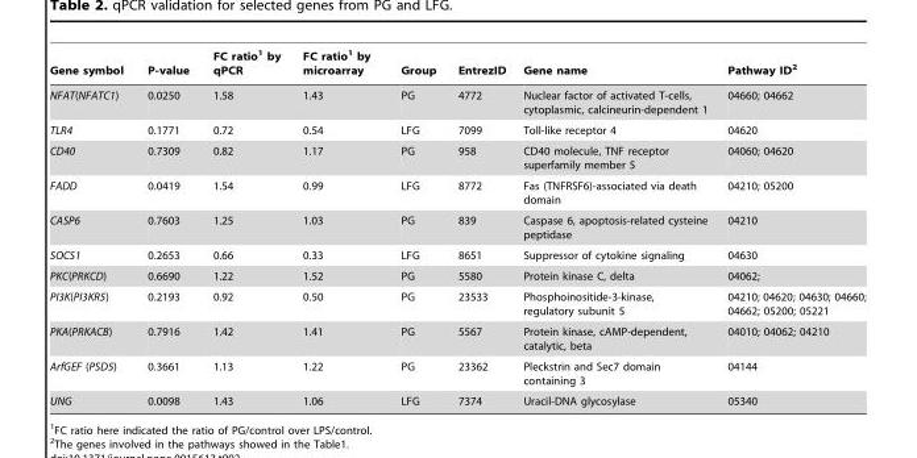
<table><thead><tr><td>Gene symbol</td><td>P-value</td><td>FC ratio<sup>1</sup> by qPCR</td><td>FC ratio<sup>1</sup> by microarray</td><td>Group</td><td>EntrezID</td><td>Gene name</td><td>Pathway ID<sup>2</sup></td></tr></thead><tbody><tr><td>NFAT(NFATC1)</td><td>0.0250</td><td>1.58</td><td>1.43</td><td>PG</td><td>4772</td><td>Nuclear factor of activated T-cells, cytoplasmic, calcineurin-dependent 1</td><td>04660; 04662</td></tr><tr><td>TLR4</td><td>0.1771</td><td>0.72</td><td>0.54</td><td>LFG</td><td>7099</td><td>Toll-like receptor 4</td><td>04620</td></tr><tr><td>CD40</td><td>0.7309</td><td>0.82</td><td>1.17</td><td>PG</td><td>958</td><td>CD40 molecule, TNF receptor superfamily member 5</td><td>04060; 04620</td></tr><tr><td>FADD</td><td>0.0419</td><td>1.54</td><td>0.99</td><td>LFG</td><td>8772</td><td>Fas (TNFRSF6)-associated via death domain</td><td>04210; 05200</td></tr><tr><td>CASP6</td><td>0.7603</td><td>1.25</td><td>1.03</td><td>PG</td><td>839</td><td>Caspase 6, apoptosis-related cysteine peptidase</td><td>04210</td></tr><tr><td>SOCS1</td><td>0.2653</td><td>0.66</td><td>0.33</td><td>LFG</td><td>8651</td><td>Suppressor of cytokine signaling</td><td>04630</td></tr><tr><td>PKC(PRKCD)</td><td>0.6690</td><td>1.22</td><td>1.52</td><td>PG</td><td>5580</td><td>Protein kinase C, delta</td><td>04062;</td></tr><tr><td>PI3K(PI3KR5)</td><td>0.2193</td><td>0.92</td><td>0.50</td><td>PG</td><td>23533</td><td>Phosphoinositide-3-kinase, regulatory subunit 5</td><td>04210; 04620; 04630; 04660; 04662; 05200; 05221</td></tr><tr><td>PKA(PRKACB)</td><td>0.7916</td><td>1.42</td><td>1.41</td><td>PG</td><td>5567</td><td>Protein kinase, cAMP-dependent, catalytic, beta</td><td>04010; 04062; 04210</td></tr><tr><td>ArfGEF (PSD5)</td><td>0.3661</td><td>1.13</td><td>1.22</td><td>PG</td><td>23362</td><td>Pleckstrin and Sec7 domain containing 3</td><td>04144</td></tr><tr><td>UNG</td><td>0.0098</td><td>1.43</td><td>1.06</td><td>LFG</td><td>7374</td><td>Uracil-DNA glycosylase</td><td>05340</td></tr></tbody></table>